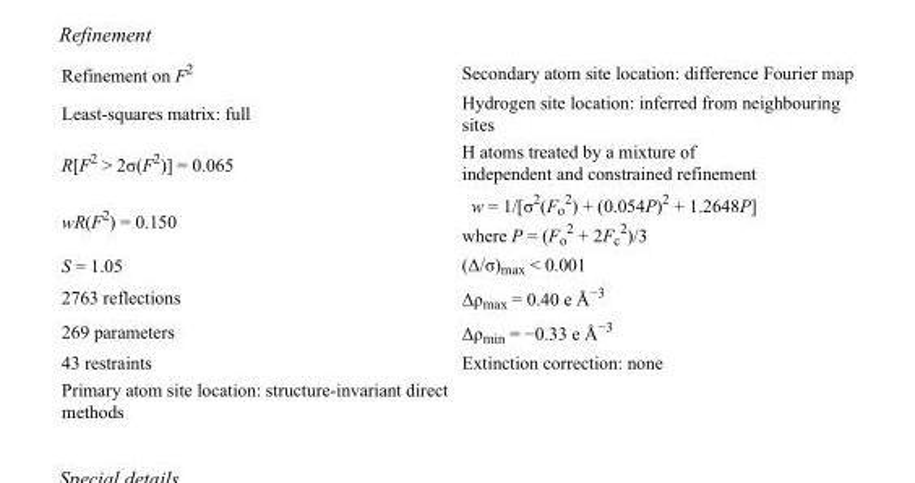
<table><tbody><tr><td>Refinement on F<sup>2</sup></td><td>Secondary atom site location: difference Fourier map</td></tr><tr><td>Least-squares matrix: full</td><td>Hydrogen site location: inferred from neighbouring sites</td></tr><tr><td>R[F<sup>2</sup> &gt; 2σ(F<sup>2</sup>)] = 0.065</td><td>H atoms treated by a mixture of independent and constrained refinement</td></tr><tr><td>wR(F<sup>2</sup>) = 0.150</td><td>w = 1/[σ<sup>2</sup>(F<sub>o</sub> <sup>2</sup>) + (0.054P)<sup>2</sup> + 1.2648P] where P = (F<sub>o</sub> <sup>2</sup> + 2F<sub>c</sub> <sup>2</sup>)/3</td></tr><tr><td>S = 1.05</td><td>(Δ/σ)<sub>max</sub> &lt; 0.001</td></tr><tr><td>2763 reflections</td><td>Δρ<sub>max</sub> = 0.40 e Å<sup>−3</sup></td></tr><tr><td>269 parameters</td><td>Δρ<sub>min</sub> = −0.33 e Å<sup>−3</sup></td></tr><tr><td>43 restraints</td><td>Extinction correction: none</td></tr><tr><td>Primary atom site location: structure-invariant direct methods</td><td></td></tr></tbody></table>